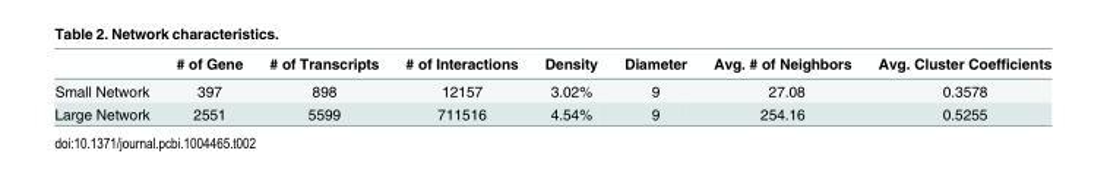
<table><thead><tr><td></td><td># of Gene</td><td># of Transcripts</td><td># of Interactions</td><td>Density</td><td>Diameter</td><td>Avg. # of Neighbors</td><td>Avg. Cluster Coefficients</td></tr></thead><tbody><tr><td>Small Network</td><td>397</td><td>898</td><td>12157</td><td>3.02%</td><td>9</td><td>27.08</td><td>0.3578</td></tr><tr><td>Large Network</td><td>2551</td><td>5599</td><td>711516</td><td>4.54%</td><td>9</td><td>254.16</td><td>0.5255</td></tr></tbody></table>